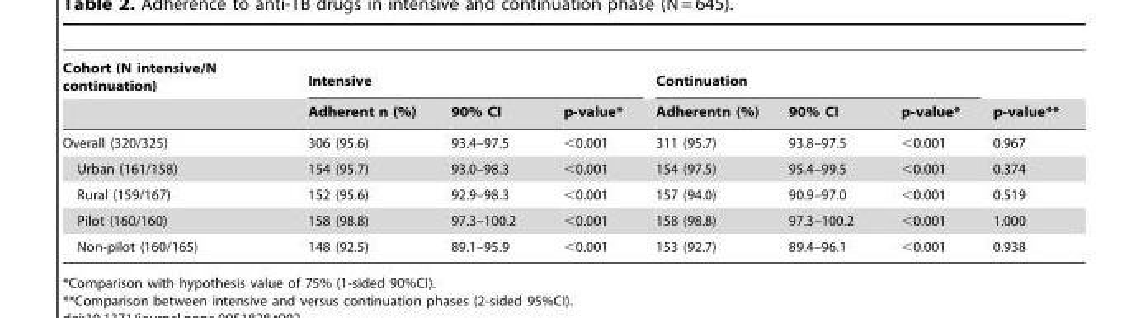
<table><thead><tr><td rowspan="2">Cohort (N intensive/N continuation)</td><td colspan="3">Intensive</td><td colspan="3">Continuation</td><td rowspan="2">p-value**</td></tr><tr><td>Adherent n (%)</td><td>90% CI</td><td>p-value*</td><td>Adherentn (%)</td><td>90% CI</td><td>p-value*</td></tr></thead><tbody><tr><td>Overall (320/325)</td><td>306 (95.6)</td><td>93.4–97.5</td><td>&lt;0.001</td><td>311 (95.7)</td><td>93.8–97.5</td><td>&lt;0.001</td><td>0.967</td></tr><tr><td>Urban (161/158)</td><td>154 (95.7)</td><td>93.0–98.3</td><td>&lt;0.001</td><td>154 (97.5)</td><td>95.4–99.5</td><td>&lt;0.001</td><td>0.374</td></tr><tr><td>Rural (159/167)</td><td>152 (95.6)</td><td>92.9–98.3</td><td>&lt;0.001</td><td>157 (94.0)</td><td>90.9–97.0</td><td>&lt;0.001</td><td>0.519</td></tr><tr><td>Pilot (160/160)</td><td>158 (98.8)</td><td>97.3–100.2</td><td>&lt;0.001</td><td>158 (98.8)</td><td>97.3–100.2</td><td>&lt;0.001</td><td>1.000</td></tr><tr><td>Non-pilot (160/165)</td><td>148 (92.5)</td><td>89.1–95.9</td><td>&lt;0.001</td><td>153 (92.7)</td><td>89.4–96.1</td><td>&lt;0.001</td><td>0.938</td></tr></tbody></table>